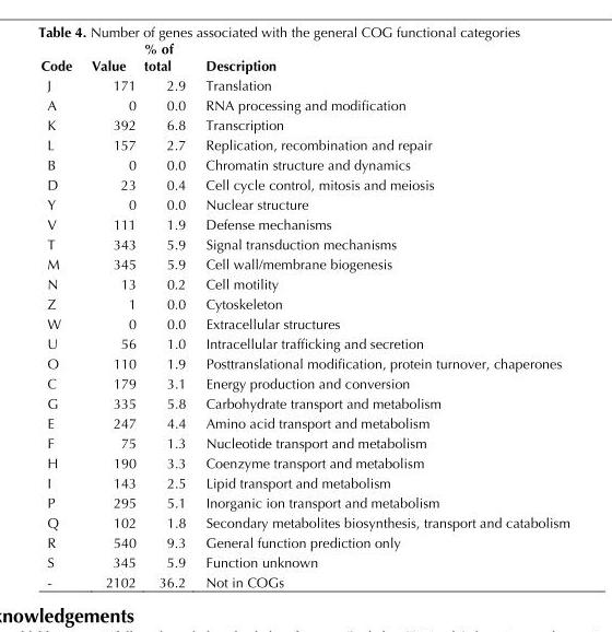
<table><thead><tr><td>Code</td><td>Value</td><td>% of total</td><td>Description</td></tr></thead><tbody><tr><td>J</td><td>171</td><td>2.9</td><td>Translation</td></tr><tr><td>A</td><td>0</td><td>0.0</td><td>RNA processing and modification</td></tr><tr><td>K</td><td>392</td><td>6.8</td><td>Transcription</td></tr><tr><td>L</td><td>157</td><td>2.7</td><td>Replication, recombination and repair</td></tr><tr><td>B</td><td>0</td><td>0.0</td><td>Chromatin structure and dynamics</td></tr><tr><td>D</td><td>23</td><td>0.4</td><td>Cell cycle control, mitosis and meiosis</td></tr><tr><td>Y</td><td>0</td><td>0.0</td><td>Nuclear structure</td></tr><tr><td>V</td><td>111</td><td>1.9</td><td>Defense mechanisms</td></tr><tr><td>T</td><td>343</td><td>5.9</td><td>Signal transduction mechanisms</td></tr><tr><td>M</td><td>345</td><td>5.9</td><td>Cell wall/membrane biogenesis</td></tr><tr><td>N</td><td>13</td><td>0.2</td><td>Cell motility</td></tr><tr><td>Z</td><td>1</td><td>0.0</td><td>Cytoskeleton</td></tr><tr><td>W</td><td>0</td><td>0.0</td><td>Extracellular structures</td></tr><tr><td>U</td><td>56</td><td>1.0</td><td>Intracellular trafficking and secretion</td></tr><tr><td>O</td><td>110</td><td>1.9</td><td>Posttranslational modification, protein turnover, chaperones</td></tr><tr><td>C</td><td>179</td><td>3.1</td><td>Energy production and conversion</td></tr><tr><td>G</td><td>335</td><td>5.8</td><td>Carbohydrate transport and metabolism</td></tr><tr><td>E</td><td>247</td><td>4.4</td><td>Amino acid transport and metabolism</td></tr><tr><td>F</td><td>75</td><td>1.3</td><td>Nucleotide transport and metabolism</td></tr><tr><td>H</td><td>190</td><td>3.3</td><td>Coenzyme transport and metabolism</td></tr><tr><td>I</td><td>143</td><td>2.5</td><td>Lipid transport and metabolism</td></tr><tr><td>P</td><td>295</td><td>5.1</td><td>Inorganic ion transport and metabolism</td></tr><tr><td>Q</td><td>102</td><td>1.8</td><td>Secondary metabolites biosynthesis, transport and catabolism</td></tr><tr><td>R</td><td>540</td><td>9.3</td><td>General function prediction only</td></tr><tr><td>S</td><td>345</td><td>5.9</td><td>Function unknown</td></tr><tr><td>-</td><td>2102</td><td>36.2</td><td>Not in COGs</td></tr></tbody></table>